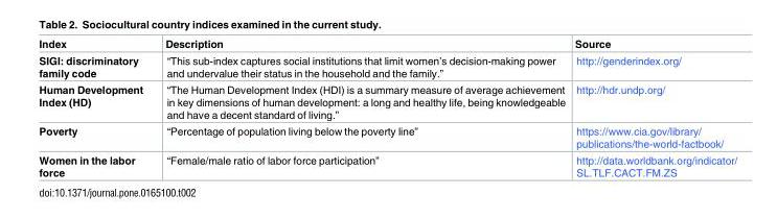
<table><thead><tr><td>Index</td><td>Description</td><td>Source</td></tr></thead><tbody><tr><td>SIGI: discriminatory family code</td><td>“This sub-index captures social institutions that limit women’s decision-making power and undervalue their status in the household and the family.”</td><td>http://genderindex.org/</td></tr><tr><td>Human Development Index (HD)</td><td>“The Human Development Index (HDI) is a summary measure of average achievement in key dimensions of human development: a long and healthy life, being knowledgeable and have a decent standard of living.”</td><td>http://hdr.undp.org/</td></tr><tr><td>Poverty</td><td>“Percentage of population living below the poverty line”</td><td>https://www.cia.gov/library/ publications/the-world-factbook/</td></tr><tr><td>Women in the labor force</td><td>“Female/male ratio of labor force participation”</td><td>http://data.worldbank.org/indicator/ SL.TLF.CACT.FM.ZS</td></tr></tbody></table>